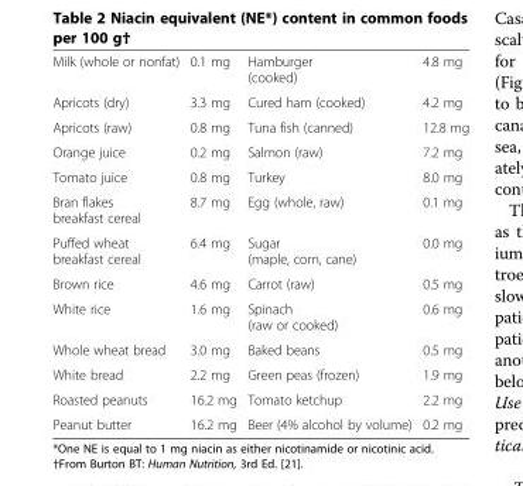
<table><tbody><tr><td>Milk (whole or nonfat)</td><td>0.1 mg</td><td>Hamburger (cooked)</td><td>4.8 mg</td></tr><tr><td>Apricots (dry)</td><td>3.3 mg</td><td>Cured ham (cooked)</td><td>4.2 mg</td></tr><tr><td>Apricots (raw)</td><td>0.8 mg</td><td>Tuna fish (canned)</td><td>12.8 mg</td></tr><tr><td>Orange juice</td><td>0.2 mg</td><td>Salmon (raw)</td><td>7.2 mg</td></tr><tr><td>Tomato juice</td><td>0.8 mg</td><td>Turkey</td><td>8.0 mg</td></tr><tr><td>Bran flakes breakfast cereal</td><td>8.7 mg</td><td>Egg (whole, raw)</td><td>0.1 mg</td></tr><tr><td>Puffed wheat breakfast cereal</td><td>6.4 mg</td><td>Sugar (maple, corn, cane)</td><td>0.0 mg</td></tr><tr><td>Brown rice</td><td>4.6 mg</td><td>Carrot (raw)</td><td>0.5 mg</td></tr><tr><td>White rice</td><td>1.6 mg</td><td>Spinach (raw or cooked)</td><td>0.6 mg</td></tr><tr><td>Whole wheat bread</td><td>3.0 mg</td><td>Baked beans</td><td>0.5 mg</td></tr><tr><td>White bread</td><td>2.2 mg</td><td>Green peas (frozen)</td><td>1.9 mg</td></tr><tr><td>Roasted peanuts</td><td>16.2 mg</td><td>Tomato ketchup</td><td>2.2 mg</td></tr><tr><td>Peanut butter</td><td>16.2 mg</td><td>Beer (4% alcohol by volume)</td><td>0.2 mg</td></tr></tbody></table>